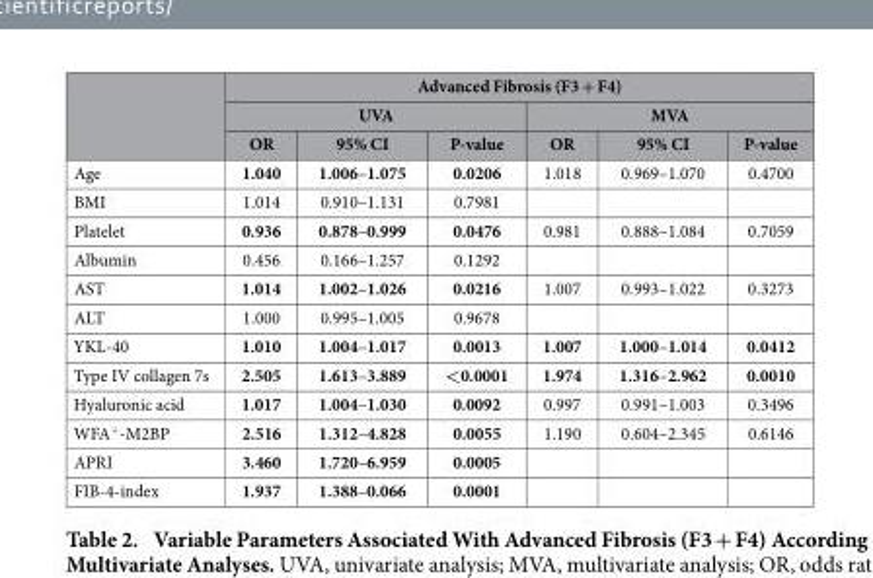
<table><thead><tr><td rowspan="3"></td><td colspan="6">Advanced Fibrosis (F3 + F4)</td></tr><tr><td colspan="3">UVA</td><td colspan="3">MVA</td></tr><tr><td>OR</td><td>95% CI</td><td>P-value</td><td>OR</td><td>95% CI</td><td>P-value</td></tr></thead><tbody><tr><td>Age</td><td>1.040</td><td>1.006–1.075</td><td>0.0206</td><td>1.018</td><td>0.969–1.070</td><td>0.4700</td></tr><tr><td>BMI</td><td>1.014</td><td>0.910–1.131</td><td>0.7981</td><td></td><td></td><td></td></tr><tr><td>Platelet</td><td>0.936</td><td>0.878–0.999</td><td>0.0476</td><td>0.981</td><td>0.888–1.084</td><td>0.7059</td></tr><tr><td>Albumin</td><td>0.456</td><td>0.166–1.257</td><td>0.1292</td><td></td><td></td><td></td></tr><tr><td>AST</td><td>1.014</td><td>1.002–1.026</td><td>0.0216</td><td>1.007</td><td>0.993–1.022</td><td>0.3273</td></tr><tr><td>ALT</td><td>1.000</td><td>0.995–1.005</td><td>0.9678</td><td></td><td></td><td></td></tr><tr><td>YKL-40</td><td>1.010</td><td>1.004–1.017</td><td>0.0013</td><td>1.007</td><td>1.000–1.014</td><td>0.0412</td></tr><tr><td>Type IV collagen 7s</td><td>2.505</td><td>1.613–3.889</td><td>&lt;0.0001</td><td>1.974</td><td>1.316–2.962</td><td>0.0010</td></tr><tr><td>Hyaluronic acid</td><td>1.017</td><td>1.004–1.030</td><td>0.0092</td><td>0.997</td><td>0.991–1.003</td><td>0.3496</td></tr><tr><td>WFA<sup>+</sup>-M2BP</td><td>2.516</td><td>1.312–4.828</td><td>0.0055</td><td>1.190</td><td>0.604–2.345</td><td>0.6146</td></tr><tr><td>APRI</td><td>3.460</td><td>1.720–6.959</td><td>0.0005</td><td></td><td></td><td></td></tr><tr><td>FIB-4-index</td><td>1.937</td><td>1.388–0.066</td><td>0.0001</td><td></td><td></td><td></td></tr></tbody></table>